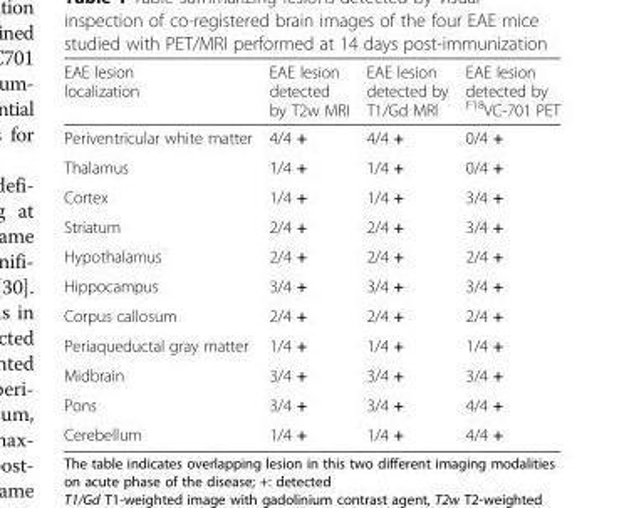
<table><thead><tr><td>EAE lesion localization</td><td>EAE lesion detected by T2w MRI</td><td>EAE lesion detected by T1/Gd MRI</td><td>EAE lesion detected by <sup>F18</sup>VC-701 PET</td></tr></thead><tbody><tr><td>Periventricular white matter</td><td>4/4 +</td><td>4/4 +</td><td>0/4 +</td></tr><tr><td>Thalamus</td><td>1/4 +</td><td>1/4 +</td><td>0/4 +</td></tr><tr><td>Cortex</td><td>1/4 +</td><td>1/4 +</td><td>3/4 +</td></tr><tr><td>Striatum</td><td>2/4 +</td><td>2/4 +</td><td>3/4 +</td></tr><tr><td>Hypothalamus</td><td>2/4 +</td><td>2/4 +</td><td>2/4 +</td></tr><tr><td>Hippocampus</td><td>3/4 +</td><td>3/4 +</td><td>3/4 +</td></tr><tr><td>Corpus callosum</td><td>2/4 +</td><td>2/4 +</td><td>2/4 +</td></tr><tr><td>Periaqueductal gray matter</td><td>1/4 +</td><td>1/4 +</td><td>1/4 +</td></tr><tr><td>Midbrain</td><td>3/4 +</td><td>3/4 +</td><td>3/4 +</td></tr><tr><td>Pons</td><td>3/4 +</td><td>3/4 +</td><td>4/4 +</td></tr><tr><td>Cerebellum</td><td>1/4 +</td><td>1/4 +</td><td>4/4 +</td></tr></tbody></table>